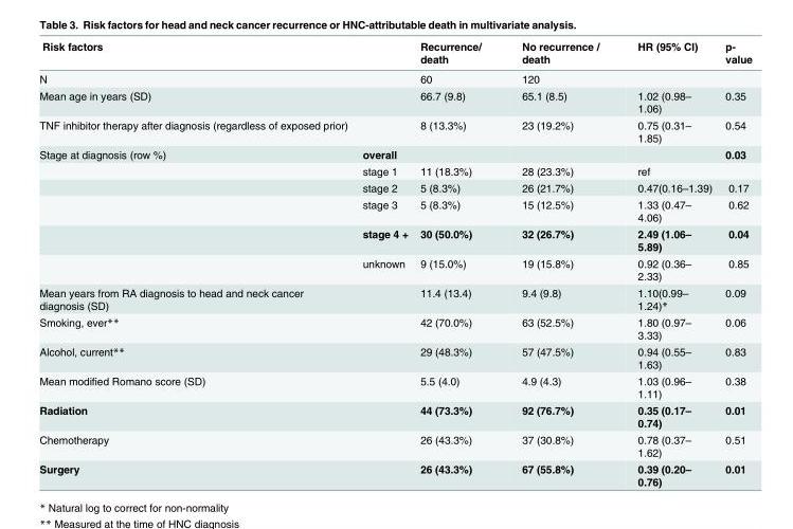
<table><thead><tr><td>Risk factors</td><td></td><td>Recurrence/ death</td><td>No recurrence / death</td><td>HR (95% CI)</td><td>p- value</td></tr></thead><tbody><tr><td>N</td><td></td><td>60</td><td>120</td><td></td><td></td></tr><tr><td>Mean age in years (SD)</td><td></td><td>66.7 (9.8)</td><td>65.1 (8.5)</td><td>1.02 (0.98– 1.06)</td><td>0.35</td></tr><tr><td>TNF inhibitor therapy after diagnosis (regardless of exposed prior)</td><td></td><td>8 (13.3%)</td><td>23 (19.2%)</td><td>0.75 (0.31– 1.85)</td><td>0.54</td></tr><tr><td rowspan="6">Stage at diagnosis (row %)</td><td>overall</td><td></td><td></td><td></td><td>0.03</td></tr><tr><td>stage 1</td><td>11 (18.3%)</td><td>28 (23.3%)</td><td>ref</td><td></td></tr><tr><td>stage 2</td><td>5 (8.3%)</td><td>26 (21.7%)</td><td>0.47(0.16–1.39)</td><td>0.17</td></tr><tr><td>stage 3</td><td>5 (8.3%)</td><td>15 (12.5%)</td><td>1.33 (0.47– 4.06)</td><td>0.62</td></tr><tr><td>stage 4 +</td><td>30 (50.0%)</td><td>32 (26.7%)</td><td>2.49 (1.06– 5.89)</td><td>0.04</td></tr><tr><td>unknown</td><td>9 (15.0%)</td><td>19 (15.8%)</td><td>0.92 (0.36– 2.33)</td><td>0.85</td></tr><tr><td>Mean years from RA diagnosis to head and neck cancer diagnosis (SD)</td><td></td><td>11.4 (13.4)</td><td>9.4 (9.8)</td><td>1.10(0.99– 1.24)*</td><td>0.09</td></tr><tr><td>Smoking, ever**</td><td></td><td>42 (70.0%)</td><td>63 (52.5%)</td><td>1.80 (0.97– 3.33)</td><td>0.06</td></tr><tr><td>Alcohol, current**</td><td></td><td>29 (48.3%)</td><td>57 (47.5%)</td><td>0.94 (0.55– 1.63)</td><td>0.83</td></tr><tr><td>Mean modified Romano score (SD)</td><td></td><td>5.5 (4.0)</td><td>4.9 (4.3)</td><td>1.03 (0.96– 1.11)</td><td>0.38</td></tr><tr><td>Radiation</td><td></td><td>44 (73.3%)</td><td>92 (76.7%)</td><td>0.35 (0.17– 0.74)</td><td>0.01</td></tr><tr><td>Chemotherapy</td><td></td><td>26 (43.3%)</td><td>37 (30.8%)</td><td>0.78 (0.37– 1.62)</td><td>0.51</td></tr><tr><td>Surgery</td><td></td><td>26 (43.3%)</td><td>67 (55.8%)</td><td>0.39 (0.20– 0.76)</td><td>0.01</td></tr></tbody></table>